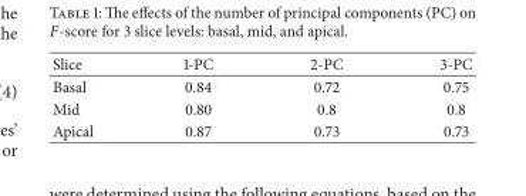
<table><thead><tr><td>Slice</td><td>1-PC</td><td>2-PC</td><td>3-PC</td></tr></thead><tbody><tr><td>Basal</td><td>0.84</td><td>0.72</td><td>0.75</td></tr><tr><td>Mid</td><td>0.80</td><td>0.8</td><td>0.8</td></tr><tr><td>Apical</td><td>0.87</td><td>0.73</td><td>0.73</td></tr></tbody></table>